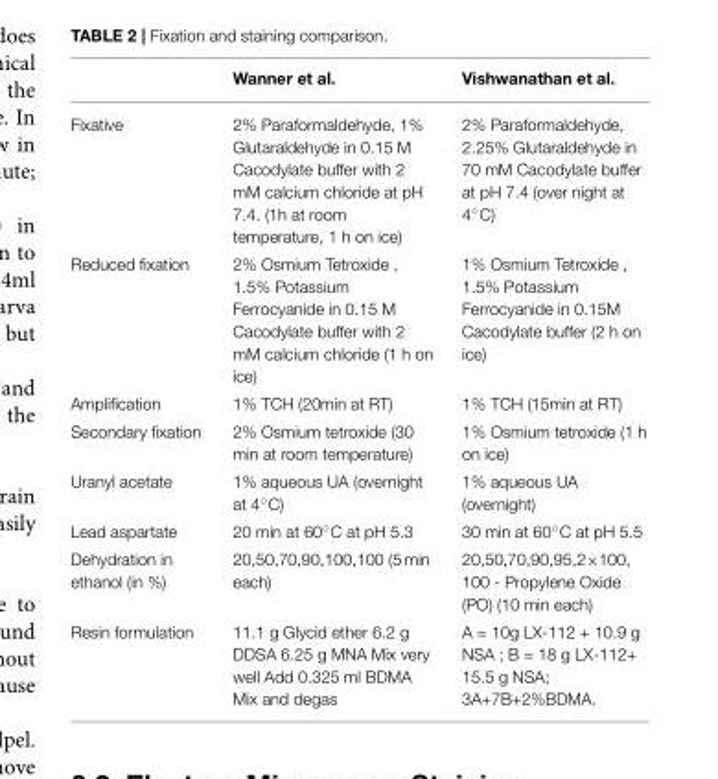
<table><thead><tr><td></td><td>Wanner et al.</td><td>Vishwanathan et al.</td></tr></thead><tbody><tr><td>Fixative</td><td>2% Paraformaldehyde, 1% Glutaraldehyde in 0.15 M Cacodylate buffer with 2 mM calcium chloride at pH 7.4. (1h at room temperature, 1 h on ice)</td><td>2% Paraformaldehyde, 2.25% Glutaraldehyde in 70 mM Cacodylate buffer at pH 7.4 (over night at 4◦C)</td></tr><tr><td>Reduced fixation</td><td>2% Osmium Tetroxide , 1.5% Potassium Ferrocyanide in 0.15 M Cacodylate buffer with 2 mM calcium chloride (1 h on ice)</td><td>1% Osmium Tetroxide , 1.5% Potassium Ferrocyanide in 0.15M Cacodylate buffer (2 h on ice)</td></tr><tr><td>Amplification</td><td>1% TCH (20min at RT)</td><td>1% TCH (15min at RT)</td></tr><tr><td>Secondary fixation</td><td>2% Osmium tetroxide (30 min at room temperature)</td><td>1% Osmium tetroxide (1 h on ice)</td></tr><tr><td>Uranyl acetate</td><td>1% aqueous UA (overnight at 4◦C)</td><td>1% aqueous UA (overnight)</td></tr><tr><td>Lead aspartate</td><td>20 min at 60◦C at pH 5.3</td><td>30 min at 60◦C at pH 5.5</td></tr><tr><td>Dehydration in ethanol (in %)</td><td>20,50,70,90,100,100 (5 min each)</td><td>20,50,70,90,95,2×100, 100 - Propylene Oxide (PO) (10 min each)</td></tr><tr><td>Resin formulation</td><td>11.1 g Glycid ether 6.2 g DDSA 6.25 g MNA Mix very well Add 0.325 ml BDMA Mix and degas</td><td>A = 10g LX-112 + 10.9 g NSA ; B = 18 g LX-112+ 15.5 g NSA; 3A+7B+2%BDMA.</td></tr></tbody></table>